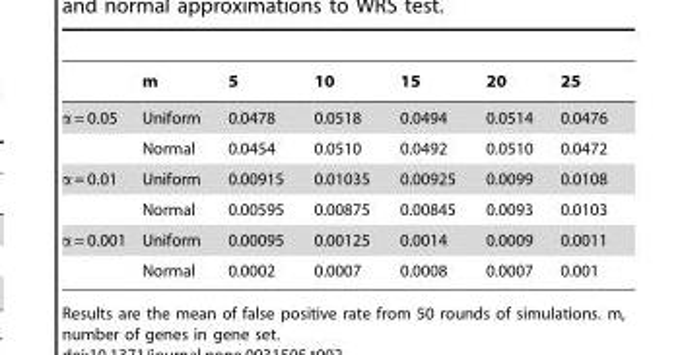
<table><thead><tr><td></td><td>m</td><td>5</td><td>10</td><td>15</td><td>20</td><td>25</td></tr></thead><tbody><tr><td rowspan="2">= 0.05</td><td>Uniform</td><td>0.0478</td><td>0.0518</td><td>0.0494</td><td>0.0514</td><td>0.0476</td></tr><tr><td>Normal</td><td>0.0454</td><td>0.0510</td><td>0.0492</td><td>0.0510</td><td>0.0472</td></tr><tr><td rowspan="2">= 0.01</td><td>Uniform</td><td>0.00915</td><td>0.01035</td><td>0.00925</td><td>0.0099</td><td>0.0108</td></tr><tr><td>Normal</td><td>0.00595</td><td>0.00875</td><td>0.00845</td><td>0.0093</td><td>0.0103</td></tr><tr><td rowspan="2">= 0.001</td><td>Uniform</td><td>0.00095</td><td>0.00125</td><td>0.0014</td><td>0.0009</td><td>0.0011</td></tr><tr><td>Normal</td><td>0.0002</td><td>0.0007</td><td>0.0008</td><td>0.0007</td><td>0.001</td></tr></tbody></table>